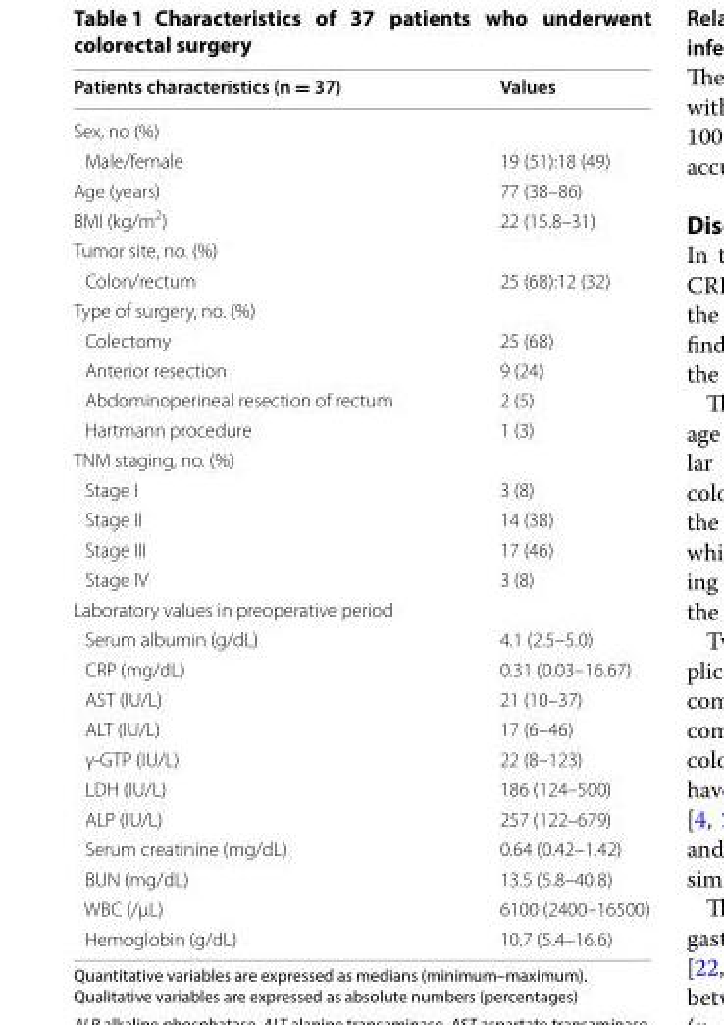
<table><thead><tr><td>Patients characteristics (n = 37)</td><td>Values</td></tr></thead><tbody><tr><td colspan="2">Sex, no (%)</td></tr><tr><td>Male/female</td><td>19 (51):18 (49)</td></tr><tr><td>Age (years)</td><td>77 (38–86)</td></tr><tr><td>BMI (kg/m<sup>2</sup>)</td><td>22 (15.8–31)</td></tr><tr><td colspan="2">Tumor site, no. (%)</td></tr><tr><td>Colon/rectum</td><td>25 (68):12 (32)</td></tr><tr><td colspan="2">Type of surgery, no. (%)</td></tr><tr><td>Colectomy</td><td>25 (68)</td></tr><tr><td>Anterior resection</td><td>9 (24)</td></tr><tr><td>Abdominoperineal resection of rectum</td><td>2 (5)</td></tr><tr><td>Hartmann procedure</td><td>1 (3)</td></tr><tr><td colspan="2">TNM staging, no. (%)</td></tr><tr><td>Stage I</td><td>3 (8)</td></tr><tr><td>Stage II</td><td>14 (38)</td></tr><tr><td>Stage III</td><td>17 (46)</td></tr><tr><td>Stage IV</td><td>3 (8)</td></tr><tr><td colspan="2">Laboratory values in preoperative period</td></tr><tr><td>Serum albumin (g/dL)</td><td>4.1 (2.5–5.0)</td></tr><tr><td>CRP (mg/dL)</td><td>0.31 (0.03–16.67)</td></tr><tr><td>AST (IU/L)</td><td>21 (10–37)</td></tr><tr><td>ALT (IU/L)</td><td>17 (6–46)</td></tr><tr><td>γ-GTP (IU/L)</td><td>22 (8–123)</td></tr><tr><td>LDH (IU/L)</td><td>186 (124–500)</td></tr><tr><td>ALP (IU/L)</td><td>257 (122–679)</td></tr><tr><td>Serum creatinine (mg/dL)</td><td>0.64 (0.42–1.42)</td></tr><tr><td>BUN (mg/dL)</td><td>13.5 (5.8–40.8)</td></tr><tr><td>WBC (/μL)</td><td>6100 (2400–16500)</td></tr><tr><td>Hemoglobin (g/dL)</td><td>10.7 (5.4–16.6)</td></tr></tbody></table>